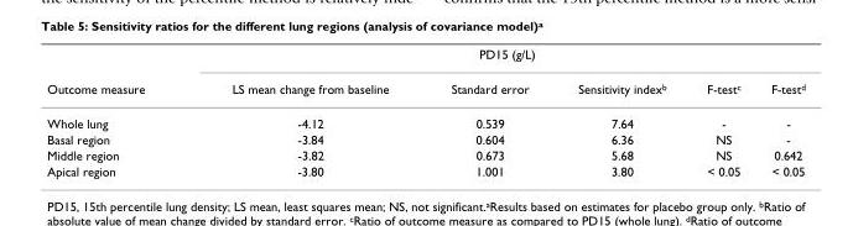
<table><thead><tr><td rowspan="2">Outcome measure</td><td colspan="5">PD15 (g/L)</td></tr><tr><td>LS mean change from baseline</td><td>Standard error</td><td>Sensitivity index<sup>b</sup></td><td>F-test<sup>c</sup></td><td>F-test<sup>d</sup></td></tr></thead><tbody><tr><td>Whole lung</td><td>-4.12</td><td>0.539</td><td>7.64</td><td>-</td><td>-</td></tr><tr><td>Basal region</td><td>-3.84</td><td>0.604</td><td>6.36</td><td>NS</td><td>-</td></tr><tr><td>Middle region</td><td>-3.82</td><td>0.673</td><td>5.68</td><td>NS</td><td>0.642</td></tr><tr><td>Apical region</td><td>-3.80</td><td>1.001</td><td>3.80</td><td>&lt; 0.05</td><td>&lt; 0.05</td></tr></tbody></table>